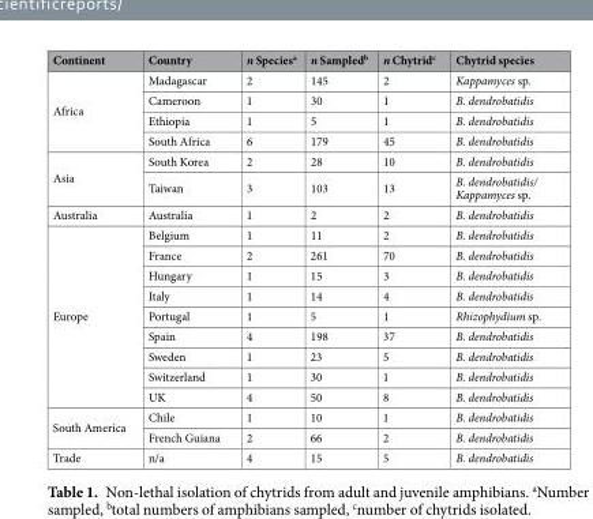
<table><thead><tr><td>Continent</td><td>Country</td><td>n Species<sup>a</sup></td><td>n Sampled<sup>b</sup></td><td>n Chytrid<sup>c</sup></td><td>Chytrid species</td></tr></thead><tbody><tr><td rowspan="4">Africa</td><td>Madagascar</td><td>2</td><td>145</td><td>2</td><td>Kappamyces sp.</td></tr><tr><td>Cameroon</td><td>1</td><td>30</td><td>1</td><td>B. dendrobatidis</td></tr><tr><td>Ethiopia</td><td>1</td><td>5</td><td>1</td><td>B. dendrobatidis</td></tr><tr><td>South Africa</td><td>6</td><td>179</td><td>45</td><td>B. dendrobatidis</td></tr><tr><td rowspan="2">Asia</td><td>South Korea</td><td>2</td><td>28</td><td>10</td><td>B. dendrobatidis</td></tr><tr><td>Taiwan</td><td>3</td><td>103</td><td>13</td><td>B. dendrobatidis/ Kappamyces sp.</td></tr><tr><td>Australia</td><td>Australia</td><td>1</td><td>2</td><td>2</td><td>B. dendrobatidis</td></tr><tr><td rowspan="9">Europe</td><td>Belgium</td><td>1</td><td>11</td><td>2</td><td>B. dendrobatidis</td></tr><tr><td>France</td><td>2</td><td>261</td><td>70</td><td>B. dendrobatidis</td></tr><tr><td>Hungary</td><td>1</td><td>15</td><td>3</td><td>B. dendrobatidis</td></tr><tr><td>Italy</td><td>1</td><td>14</td><td>4</td><td>B. dendrobatidis</td></tr><tr><td>Portugal</td><td>1</td><td>5</td><td>1</td><td>Rhizophydium sp.</td></tr><tr><td>Spain</td><td>4</td><td>198</td><td>37</td><td>B. dendrobatidis</td></tr><tr><td>Sweden</td><td>1</td><td>23</td><td>5</td><td>B. dendrobatidis</td></tr><tr><td>Switzerland</td><td>1</td><td>30</td><td>1</td><td>B. dendrobatidis</td></tr><tr><td>UK</td><td>4</td><td>50</td><td>8</td><td>B. dendrobatidis</td></tr><tr><td rowspan="2">South America</td><td>Chile</td><td>1</td><td>10</td><td>1</td><td>B. dendrobatidis</td></tr><tr><td>French Guiana</td><td>2</td><td>66</td><td>2</td><td>B. dendrobatidis</td></tr><tr><td>Trade</td><td>n/a</td><td>4</td><td>15</td><td>5</td><td>B. dendrobatidis</td></tr></tbody></table>